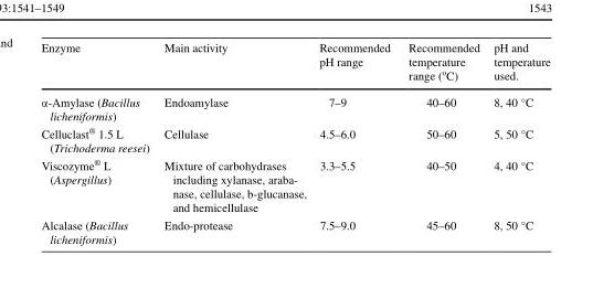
<table><thead><tr><td>Enzyme</td><td>Main activity</td><td>Recommended pH range</td><td>Recommended temperature range (<sup>o</sup>C)</td><td>pH and temperature used.</td></tr></thead><tbody><tr><td>α-Amylase (Bacillus licheniformis)</td><td>Endoamylase</td><td>7–9</td><td>40–60</td><td>8, 40 °C</td></tr><tr><td>Celluclast<sup>®</sup> 1.5 L (Trichoderma reesei)</td><td>Cellulase</td><td>4.5–6.0</td><td>50–60</td><td>5, 50 °C</td></tr><tr><td>Viscozyme<sup>®</sup> L (Aspergillus)</td><td>Mixture of carbohydrases including xylanase, araba- nase, cellulase, b-glucanase, and hemicellulase</td><td>3.3–5.5</td><td>40–50</td><td>4, 40 °C</td></tr><tr><td>Alcalase (Bacillus licheniformis)</td><td>Endo-protease</td><td>7.5–9.0</td><td>45–60</td><td>8, 50 °C</td></tr></tbody></table>